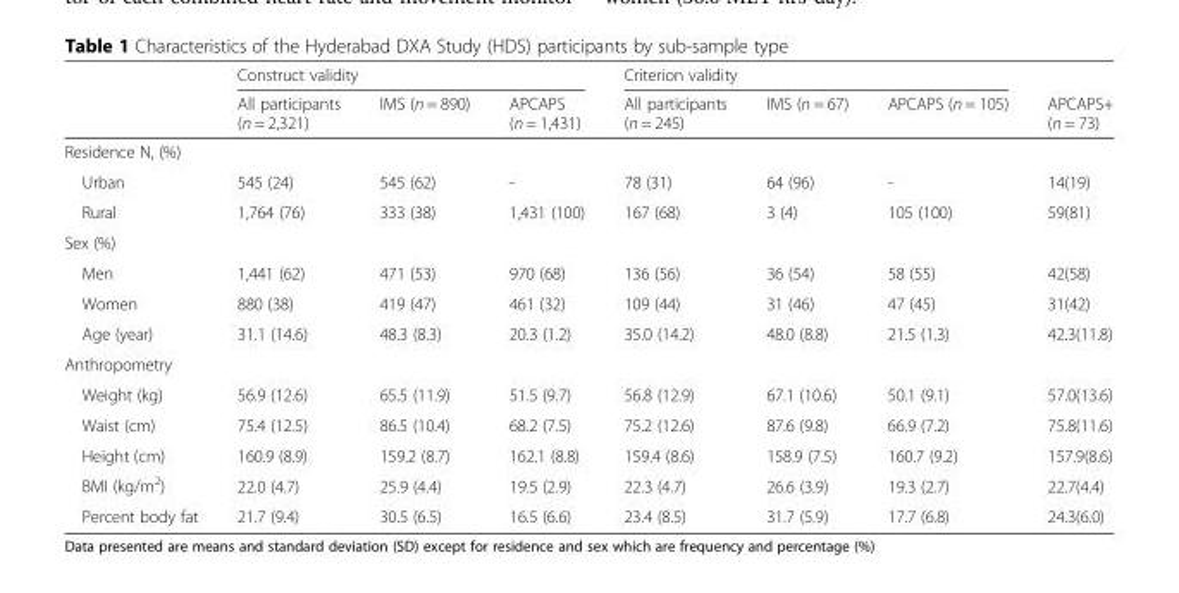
<table><thead><tr><td rowspan="2"></td><td colspan="3">Construct validity</td><td colspan="3">Criterion validity</td><td rowspan="2">APCAPS+ (n = 73)</td></tr><tr><td>All participants (n = 2,321)</td><td>IMS (n = 890)</td><td>APCAPS (n = 1,431)</td><td>All participants (n = 245)</td><td>IMS (n = 67)</td><td>APCAPS (n = 105)</td></tr></thead><tbody><tr><td colspan="8">Residence N, (%)</td></tr><tr><td>Urban</td><td>545 (24)</td><td>545 (62)</td><td>-</td><td>78 (31)</td><td>64 (96)</td><td>-</td><td>14(19)</td></tr><tr><td>Rural</td><td>1,764 (76)</td><td>333 (38)</td><td>1,431 (100)</td><td>167 (68)</td><td>3 (4)</td><td>105 (100)</td><td>59(81)</td></tr><tr><td colspan="8">Sex (%)</td></tr><tr><td>Men</td><td>1,441 (62)</td><td>471 (53)</td><td>970 (68)</td><td>136 (56)</td><td>36 (54)</td><td>58 (55)</td><td>42(58)</td></tr><tr><td>Women</td><td>880 (38)</td><td>419 (47)</td><td>461 (32)</td><td>109 (44)</td><td>31 (46)</td><td>47 (45)</td><td>31(42)</td></tr><tr><td>Age (year)</td><td>31.1 (14.6)</td><td>48.3 (8.3)</td><td>20.3 (1.2)</td><td>35.0 (14.2)</td><td>48.0 (8.8)</td><td>21.5 (1.3)</td><td>42.3(11.8)</td></tr><tr><td colspan="8">Anthropometry</td></tr><tr><td>Weight (kg)</td><td>56.9 (12.6)</td><td>65.5 (11.9)</td><td>51.5 (9.7)</td><td>56.8 (12.9)</td><td>67.1 (10.6)</td><td>50.1 (9.1)</td><td>57.0(13.6)</td></tr><tr><td>Waist (cm)</td><td>75.4 (12.5)</td><td>86.5 (10.4)</td><td>68.2 (7.5)</td><td>75.2 (12.6)</td><td>87.6 (9.8)</td><td>66.9 (7.2)</td><td>75.8(11.6)</td></tr><tr><td>Height (cm)</td><td>160.9 (8.9)</td><td>159.2 (8.7)</td><td>162.1 (8.8)</td><td>159.4 (8.6)</td><td>158.9 (7.5)</td><td>160.7 (9.2)</td><td>157.9(8.6)</td></tr><tr><td>BMI (kg/m<sup>2</sup>)</td><td>22.0 (4.7)</td><td>25.9 (4.4)</td><td>19.5 (2.9)</td><td>22.3 (4.7)</td><td>26.6 (3.9)</td><td>19.3 (2.7)</td><td>22.7(4.4)</td></tr><tr><td>Percent body fat</td><td>21.7 (9.4)</td><td>30.5 (6.5)</td><td>16.5 (6.6)</td><td>23.4 (8.5)</td><td>31.7 (5.9)</td><td>17.7 (6.8)</td><td>24.3(6.0)</td></tr></tbody></table>